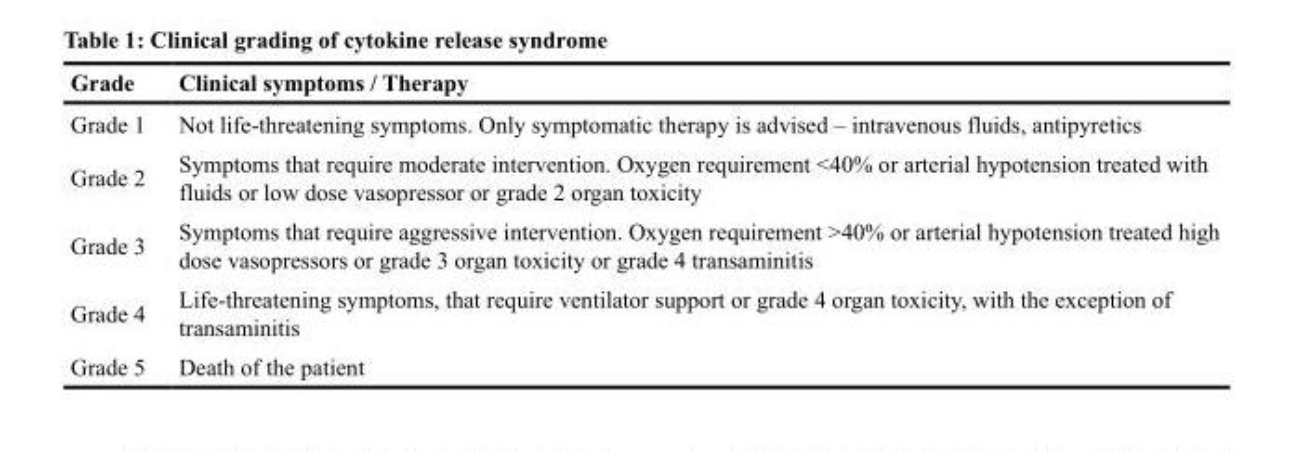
<table><thead><tr><td>Grade</td><td>Clinical symptoms / Therapy</td></tr></thead><tbody><tr><td>Grade 1</td><td>Not life-threatening symptoms. Only symptomatic therapy is advised – intravenous fluids, antipyretics</td></tr><tr><td>Grade 2</td><td>Symptoms that require moderate intervention. Oxygen requirement &lt;40% or arterial hypotension treated with fluids or low dose vasopressor or grade 2 organ toxicity</td></tr><tr><td>Grade 3</td><td>Symptoms that require aggressive intervention. Oxygen requirement &gt;40% or arterial hypotension treated high dose vasopressors or grade 3 organ toxicity or grade 4 transaminitis</td></tr><tr><td>Grade 4</td><td>Life-threatening symptoms, that require ventilator support or grade 4 organ toxicity, with the exception of transaminitis</td></tr><tr><td>Grade 5</td><td>Death of the patient</td></tr></tbody></table>